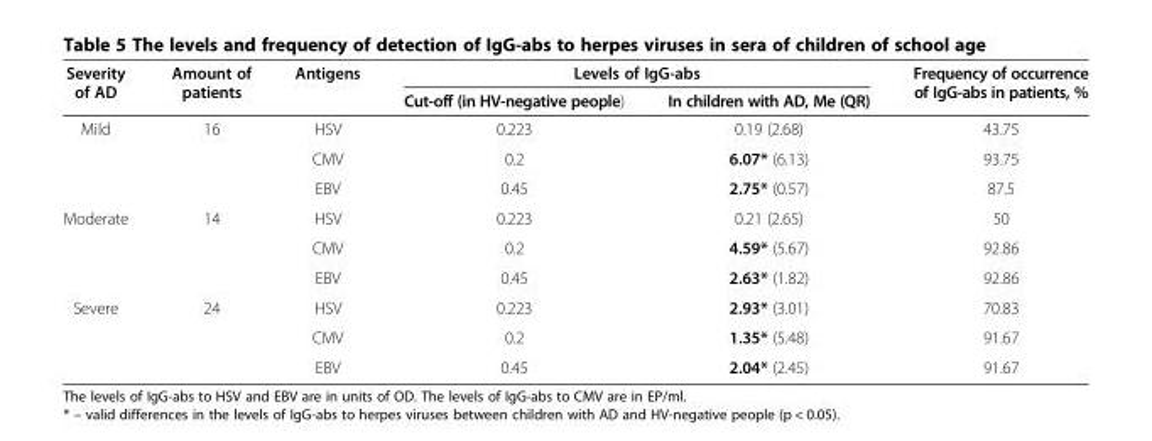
<table><thead><tr><td rowspan="2">Severity of AD</td><td rowspan="2">Amount of patients</td><td rowspan="2">Antigens</td><td colspan="2">Levels of IgG-abs</td><td rowspan="2">Frequency of occurrence of IgG-abs in patients, %</td></tr><tr><td>Cut-off (in HV-negative people)</td><td>In children with AD, Me (QR)</td></tr></thead><tbody><tr><td rowspan="3">Mild</td><td rowspan="3">16</td><td>HSV</td><td>0.223</td><td>0.19 (2.68)</td><td>43.75</td></tr><tr><td>CMV</td><td>0.2</td><td>6.07* (6.13)</td><td>93.75</td></tr><tr><td>EBV</td><td>0.45</td><td>2.75* (0.57)</td><td>87.5</td></tr><tr><td rowspan="3">Moderate</td><td rowspan="3">14</td><td>HSV</td><td>0.223</td><td>0.21 (2.65)</td><td>50</td></tr><tr><td>CMV</td><td>0.2</td><td>4.59* (5.67)</td><td>92.86</td></tr><tr><td>EBV</td><td>0.45</td><td>2.63* (1.82)</td><td>92.86</td></tr><tr><td rowspan="3">Severe</td><td rowspan="2">24</td><td>HSV</td><td>0.223</td><td>2.93* (3.01)</td><td>70.83</td></tr><tr><td>CMV</td><td>0.2</td><td>1.35* (5.48)</td><td>91.67</td></tr><tr><td></td><td>EBV</td><td>0.45</td><td>2.04* (2.45)</td><td>91.67</td></tr></tbody></table>